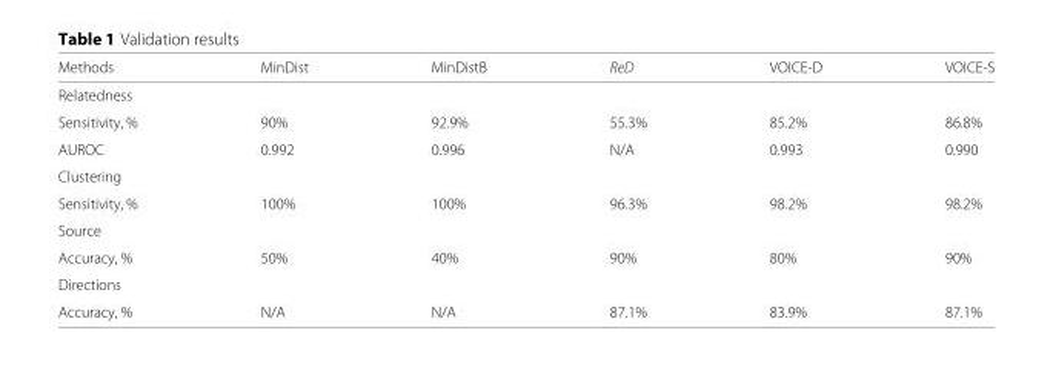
<table><thead><tr><td>Methods</td><td>MinDist</td><td>MinDistB</td><td>ReD</td><td>VOICE-D</td><td>VOICE-S</td></tr></thead><tbody><tr><td colspan="6">Relatedness</td></tr><tr><td>Sensitivity, %</td><td>90%</td><td>92.9%</td><td>55.3%</td><td>85.2%</td><td>86.8%</td></tr><tr><td>AUROC</td><td>0.992</td><td>0.996</td><td>N/A</td><td>0.993</td><td>0.990</td></tr><tr><td colspan="6">Clustering</td></tr><tr><td>Sensitivity, %</td><td>100%</td><td>100%</td><td>96.3%</td><td>98.2%</td><td>98.2%</td></tr><tr><td colspan="6">Source</td></tr><tr><td>Accuracy, %</td><td>50%</td><td>40%</td><td>90%</td><td>80%</td><td>90%</td></tr><tr><td colspan="6">Directions</td></tr><tr><td>Accuracy, %</td><td>N/A</td><td>N/A</td><td>87.1%</td><td>83.9%</td><td>87.1%</td></tr></tbody></table>